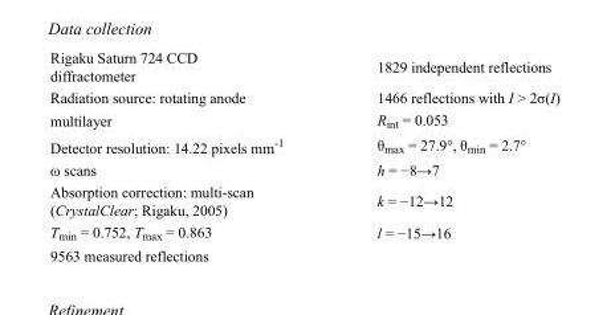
<table><tbody><tr><td>Rigaku Saturn 724 CCD diffractometer</td><td>1829 independent reflections</td></tr><tr><td>Radiation source: rotating anode</td><td>1466 reflections with I &gt; 2σ(I)</td></tr><tr><td>multilayer</td><td>R<sub>int</sub> = 0.053</td></tr><tr><td>Detector resolution: 14.22 pixels mm<sup>-1</sup></td><td>θ<sub>max</sub> = 27.9°, θ<sub>min</sub> = 2.7°</td></tr><tr><td>ω scans</td><td>h = −8→7</td></tr><tr><td>Absorption correction: multi-scan (CrystalClear; Rigaku, 2005)</td><td>k = −12→12</td></tr><tr><td>T<sub>min</sub> = 0.752, T<sub>max</sub> = 0.863</td><td>l = −15→16</td></tr><tr><td>9563 measured reflections</td><td></td></tr></tbody></table>